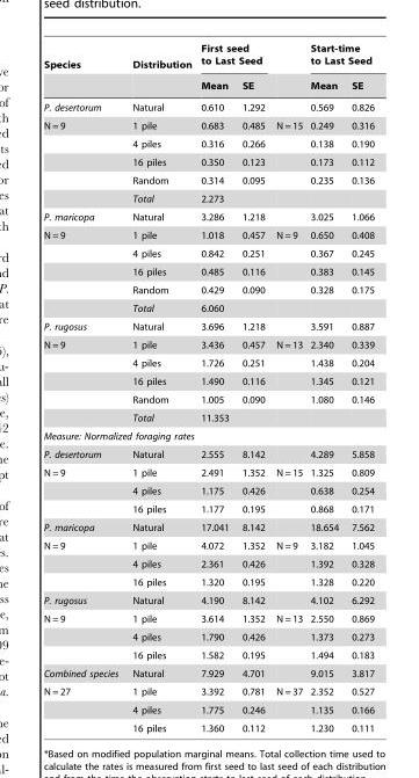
<table><thead><tr><td rowspan="2">Species</td><td rowspan="2">Distribution</td><td colspan="2">First seed to Last Seed</td><td rowspan="2"></td><td colspan="2">Start-time to Last Seed</td></tr><tr><td>Mean</td><td>SE</td><td>Mean</td><td>SE</td></tr></thead><tbody><tr><td>P. desertorum</td><td>Natural</td><td>0.610</td><td>1.292</td><td></td><td>0.569</td><td>0.826</td></tr><tr><td rowspan="5">N = 9</td><td>1 pile</td><td>0.683</td><td>0.485</td><td>N = 15</td><td>0.249</td><td>0.316</td></tr><tr><td>4 piles</td><td>0.316</td><td>0.266</td><td></td><td>0.138</td><td>0.190</td></tr><tr><td>16 piles</td><td>0.350</td><td>0.123</td><td></td><td>0.173</td><td>0.112</td></tr><tr><td>Random</td><td>0.314</td><td>0.095</td><td></td><td>0.235</td><td>0.136</td></tr><tr><td>Total</td><td>2.273</td><td></td><td></td><td></td><td></td></tr><tr><td>P. maricopa</td><td>Natural</td><td>3.286</td><td>1.218</td><td></td><td>3.025</td><td>1.066</td></tr><tr><td rowspan="5">N = 9</td><td>1 pile</td><td>1.018</td><td>0.457</td><td>N = 9</td><td>0.650</td><td>0.408</td></tr><tr><td>4 piles</td><td>0.842</td><td>0.251</td><td></td><td>0.367</td><td>0.245</td></tr><tr><td>16 piles</td><td>0.485</td><td>0.116</td><td></td><td>0.383</td><td>0.145</td></tr><tr><td>Random</td><td>0.429</td><td>0.090</td><td></td><td>0.328</td><td>0.175</td></tr><tr><td>Total</td><td>6.060</td><td></td><td></td><td></td><td></td></tr><tr><td>P. rugosus</td><td>Natural</td><td>3.696</td><td>1.218</td><td></td><td>3.591</td><td>0.887</td></tr><tr><td rowspan="5">N = 9</td><td>1 pile</td><td>3.436</td><td>0.457</td><td>N = 13</td><td>2.340</td><td>0.339</td></tr><tr><td>4 piles</td><td>1.726</td><td>0.251</td><td></td><td>1.438</td><td>0.204</td></tr><tr><td>16 piles</td><td>1.490</td><td>0.116</td><td></td><td>1.345</td><td>0.121</td></tr><tr><td>Random</td><td>1.005</td><td>0.090</td><td></td><td>1.080</td><td>0.146</td></tr><tr><td>Total</td><td>11.353</td><td></td><td></td><td></td><td></td></tr><tr><td colspan="7">Measure: Normalized foraging rates</td></tr><tr><td>P. desertorum</td><td>Natural</td><td>2.555</td><td>8.142</td><td></td><td>4.289</td><td>5.858</td></tr><tr><td rowspan="3">N = 9</td><td>1 pile</td><td>2.491</td><td>1.352</td><td>N = 15</td><td>1.325</td><td>0.809</td></tr><tr><td>4 piles</td><td>1.175</td><td>0.426</td><td></td><td>0.638</td><td>0.254</td></tr><tr><td>16 piles</td><td>1.177</td><td>0.195</td><td></td><td>0.868</td><td>0.171</td></tr><tr><td>P. maricopa</td><td>Natural</td><td>17.041</td><td>8.142</td><td></td><td>18.654</td><td>7.562</td></tr><tr><td rowspan="3">N = 9</td><td>1 pile</td><td>4.072</td><td>1.352</td><td>N = 9</td><td>3.182</td><td>1.045</td></tr><tr><td>4 piles</td><td>2.361</td><td>0.426</td><td></td><td>1.392</td><td>0.328</td></tr><tr><td>16 piles</td><td>1.320</td><td>0.195</td><td></td><td>1.328</td><td>0.220</td></tr><tr><td>P. rugosus</td><td>Natural</td><td>4.190</td><td>8.142</td><td></td><td>4.102</td><td>6.292</td></tr><tr><td rowspan="3">N = 9</td><td>1 pile</td><td>3.614</td><td>1.352</td><td>N = 13</td><td>2.550</td><td>0.869</td></tr><tr><td>4 piles</td><td>1.790</td><td>0.426</td><td></td><td>1.373</td><td>0.273</td></tr><tr><td>16 piles</td><td>1.582</td><td>0.195</td><td></td><td>1.494</td><td>0.183</td></tr><tr><td>Combined species</td><td>Natural</td><td>7.929</td><td>4.701</td><td></td><td>9.015</td><td>3.817</td></tr><tr><td rowspan="3">N = 27</td><td>1 pile</td><td>3.392</td><td>0.781</td><td>N = 37</td><td>2.352</td><td>0.527</td></tr><tr><td>4 piles</td><td>1.775</td><td>0.246</td><td></td><td>1.135</td><td>0.166</td></tr><tr><td>16 piles</td><td>1.360</td><td>0.112</td><td></td><td>1.230</td><td>0.111</td></tr></tbody></table>